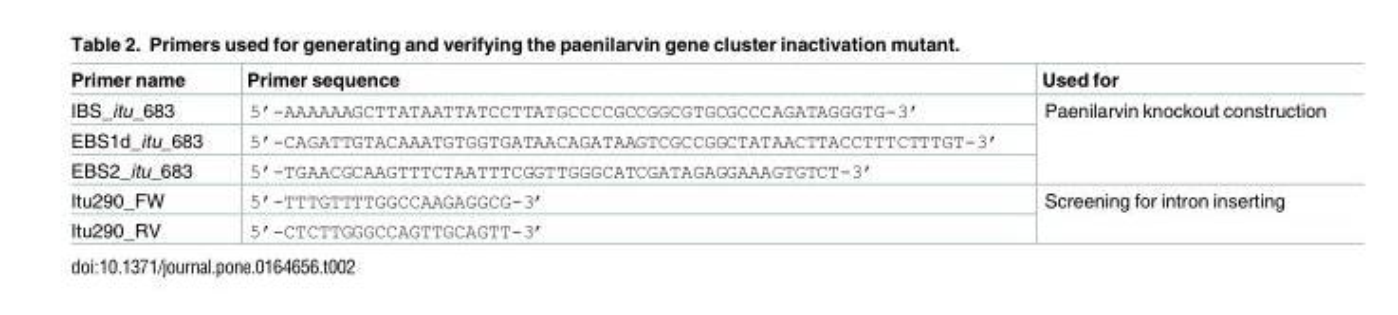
<table><thead><tr><td>Primer name</td><td>Primer sequence</td><td>Used for</td></tr></thead><tbody><tr><td>IBS_itu_683</td><td>5’-AAAAAAGCTTATAATTATCCTTATGCCCCGCCGGCGTGCGCCCAGATAGGGTG-3’</td><td rowspan="3">Paenilarvin knockout construction</td></tr><tr><td>EBS1d_itu_683</td><td>5’-CAGATTGTACAAATGTGGTGATAACAGATAAGTCGCCGGCTATAACTTACCTTTCTTTGT-3’</td></tr><tr><td>EBS2_itu_683</td><td>5’-TGAACGCAAGTTTCTAATTTCGGTTGGGCATCGATAGAGGAAAGTGTCT-3’</td></tr><tr><td>Itu290_FW</td><td>5’-TTTGTTTTGGCCAAGAGGCG-3’</td><td rowspan="2">Screening for intron inserting</td></tr><tr><td>Itu290_RV</td><td>5’-CTCTTGGGCCAGTTGCAGTT-3’</td></tr></tbody></table>